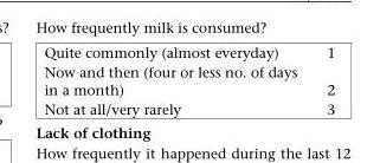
<table><tbody><tr><td>Quite commonly (almost everyday)</td><td>1</td></tr><tr><td>Now and then (four or less no. of days in a month)</td><td>2</td></tr><tr><td>Not at all/very rarely</td><td>3</td></tr></tbody></table>